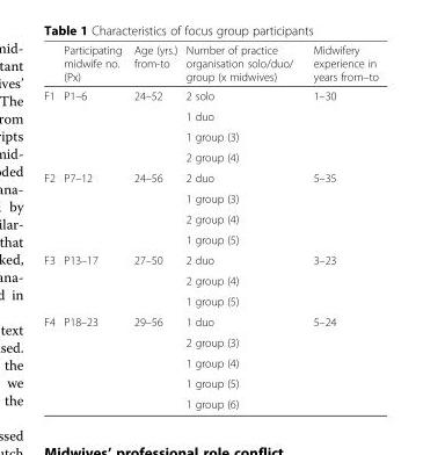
<table><thead><tr><td></td><td>Participating midwife no. (Px)</td><td>Age (yrs.) from-to</td><td>Number of practice organisation solo/duo/ group (x midwives)</td><td>Midwifery experience in years from–to</td></tr></thead><tbody><tr><td rowspan="4">F1</td><td rowspan="4">P1–6</td><td rowspan="4">24–52</td><td>2 solo</td><td rowspan="4">1–30</td></tr><tr><td>1 duo</td></tr><tr><td>1 group (3)</td></tr><tr><td>2 group (4)</td></tr><tr><td rowspan="4">F2</td><td rowspan="4">P7–12</td><td rowspan="4">24–56</td><td>2 duo</td><td rowspan="4">5–35</td></tr><tr><td>1 group (3)</td></tr><tr><td>2 group (4)</td></tr><tr><td>1 group (5)</td></tr><tr><td rowspan="3">F3</td><td rowspan="3">P13–17</td><td rowspan="3">27–50</td><td>2 duo</td><td rowspan="2">3–23</td></tr><tr><td>2 group (4)</td></tr><tr><td>1 group (5)</td><td></td></tr><tr><td rowspan="5">F4</td><td rowspan="5">P18–23</td><td rowspan="5">29–56</td><td>1 duo</td><td rowspan="2">5–24</td></tr><tr><td>2 group (3)</td></tr><tr><td>1 group (4)</td><td rowspan="3"></td></tr><tr><td>1 group (5)</td></tr><tr><td>1 group (6)</td></tr></tbody></table>